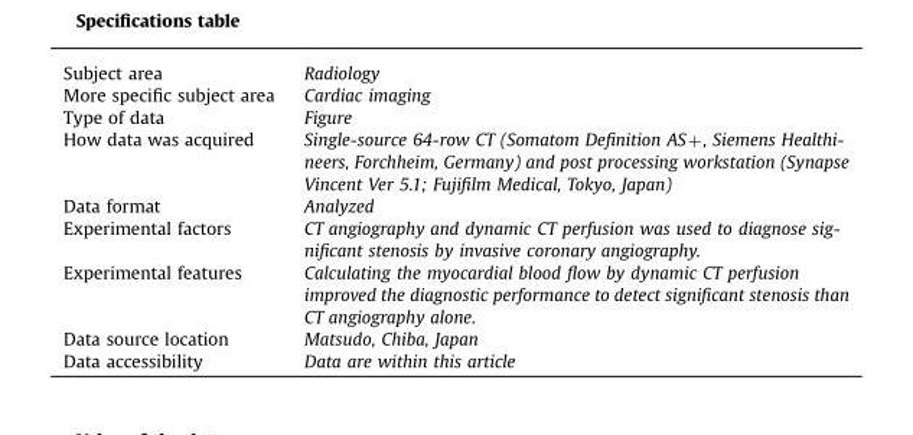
<table><thead><tr><td>Subject area</td><td>Radiology</td></tr></thead><tbody><tr><td>More specific subject area</td><td>Cardiac imaging</td></tr><tr><td>Type of data</td><td>Figure</td></tr><tr><td>How data was acquired</td><td>Single-source 64-row CT (Somatom Definition ASþ, Siemens Healthi- neers, Forchheim, Germany) and post processing workstation (Synapse Vincent Ver 5.1; Fujifilm Medical, Tokyo, Japan)</td></tr><tr><td>Data format</td><td>Analyzed</td></tr><tr><td>Experimental factors</td><td>CT angiography and dynamic CT perfusion was used to diagnose sig- nificant stenosis by invasive coronary angiography.</td></tr><tr><td>Experimental features</td><td>Calculating the myocardial blood flow by dynamic CT perfusion improved the diagnostic performance to detect significant stenosis than CT angiography alone.</td></tr><tr><td>Data source location</td><td>Matsudo, Chiba, Japan</td></tr><tr><td>Data accessibility</td><td>Data are within this article</td></tr></tbody></table>